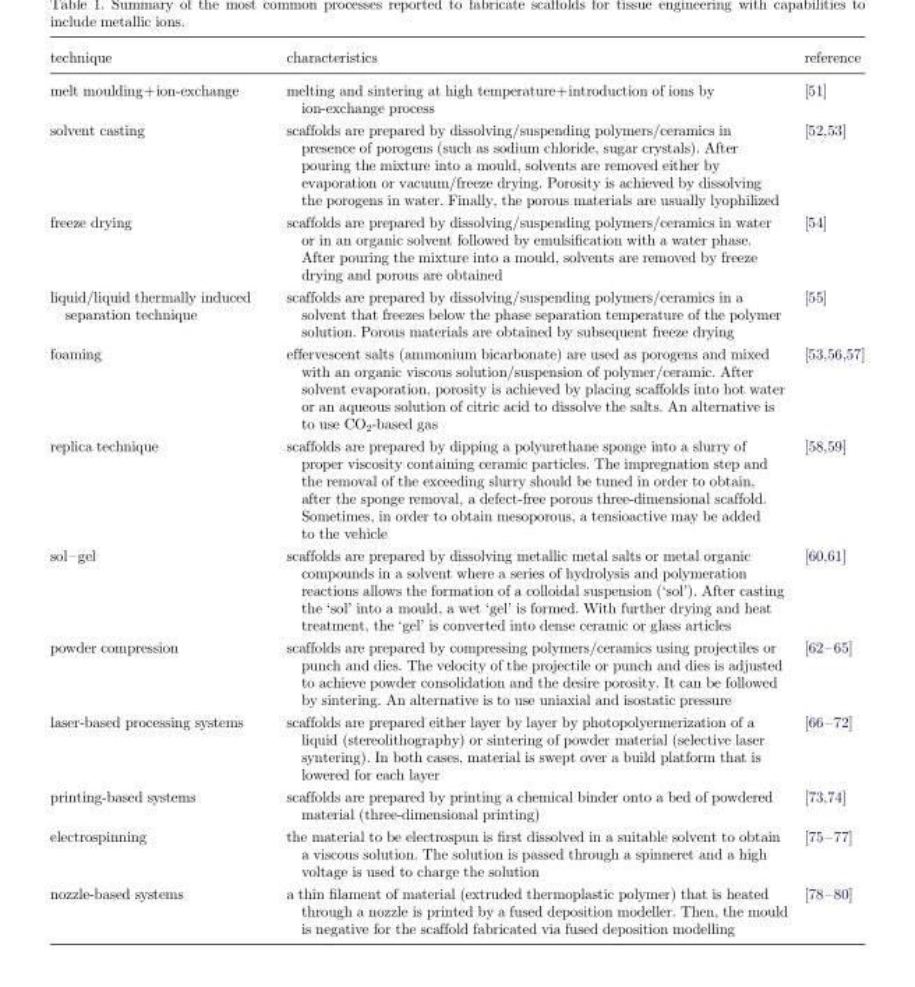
<table><thead><tr><td>technique</td><td>characteristics</td><td>reference</td></tr></thead><tbody><tr><td>melt moulding+ion-exchange</td><td>melting and sintering at high temperature+introduction of ions by ion-exchange process</td><td>[51]</td></tr><tr><td>solvent casting</td><td>scaffolds are prepared by dissolving/suspending polymers/ceramics in presence of porogens (such as sodium chloride, sugar crystals). After pouring the mixture into a mould, solvents are removed either by evaporation or vacuum/freeze drying. Porosity is achieved by dissolving the porogens in water. Finally, the porous materials are usually lyophilized</td><td>[52,53]</td></tr><tr><td>freeze drying</td><td>scaffolds are prepared by dissolving/suspending polymers/ceramics in water or in an organic solvent followed by emulsification with a water phase. After pouring the mixture into a mould, solvents are removed by freeze drying and porous are obtained</td><td>[54]</td></tr><tr><td>liquid/liquid thermally induced separation technique</td><td>scaffolds are prepared by dissolving/suspending polymers/ceramics in a solvent that freezes below the phase separation temperature of the polymer solution. Porous materials are obtained by subsequent freeze drying</td><td>[55]</td></tr><tr><td>foaming</td><td>effervescent salts (ammonium bicarbonate) are used as porogens and mixed with an organic viscous solution/suspension of polymer/ceramic. After solvent evaporation, porosity is achieved by placing scaffolds into hot water or an aqueous solution of citric acid to dissolve the salts. An alternative is to use CO<sub>2</sub>-based gas</td><td>[53,56,57]</td></tr><tr><td>replica technique</td><td>scaffolds are prepared by dipping a polyurethane sponge into a slurry of proper viscosity containing ceramic particles. The impregnation step and the removal of the exceeding slurry should be tuned in order to obtain, after the sponge removal, a defect-free porous three-dimensional scaffold. Sometimes, in order to obtain mesoporous, a tensioactive may be added to the vehicle</td><td>[58,59]</td></tr><tr><td>sol–gel</td><td>scaffolds are prepared by dissolving metallic metal salts or metal organic compounds in a solvent where a series of hydrolysis and polymeration reactions allows the formation of a colloidal suspension (‘sol’). After casting the ‘sol’ into a mould, a wet ‘gel’ is formed. With further drying and heat treatment, the ‘gel’ is converted into dense ceramic or glass articles</td><td>[60,61]</td></tr><tr><td>powder compression</td><td>scaffolds are prepared by compressing polymers/ceramics using projectiles or punch and dies. The velocity of the projectile or punch and dies is adjusted to achieve powder consolidation and the desire porosity. It can be followed by sintering. An alternative is to use uniaxial and isostatic pressure</td><td>[62–65]</td></tr><tr><td>laser-based processing systems</td><td>scaffolds are prepared either layer by layer by photopolyermerization of a liquid (stereolithography) or sintering of powder material (selective laser syntering). In both cases, material is swept over a build platform that is lowered for each layer</td><td>[66–72]</td></tr><tr><td>printing-based systems</td><td>scaffolds are prepared by printing a chemical binder onto a bed of powdered material (three-dimensional printing)</td><td>[73,74]</td></tr><tr><td>electrospinning</td><td>the material to be electrospun is first dissolved in a suitable solvent to obtain a viscous solution. The solution is passed through a spinneret and a high voltage is used to charge the solution</td><td>[75–77]</td></tr><tr><td>nozzle-based systems</td><td>a thin filament of material (extruded thermoplastic polymer) that is heated through a nozzle is printed by a fused deposition modeller. Then, the mould is negative for the scaffold fabricated via fused deposition modelling</td><td>[78–80]</td></tr></tbody></table>